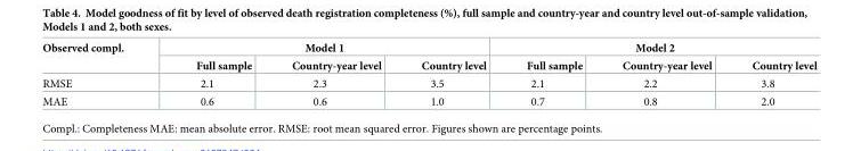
<table><thead><tr><td rowspan="2">Observed compl.</td><td colspan="3">Model 1</td><td colspan="3">Model 2</td></tr><tr><td>Full sample</td><td>Country-year level</td><td>Country level</td><td>Full sample</td><td>Country-year level</td><td>Country level</td></tr></thead><tbody><tr><td>RMSE</td><td>2.1</td><td>2.3</td><td>3.5</td><td>2.1</td><td>2.2</td><td>3.8</td></tr><tr><td>MAE</td><td>0.6</td><td>0.6</td><td>1.0</td><td>0.7</td><td>0.8</td><td>2.0</td></tr></tbody></table>